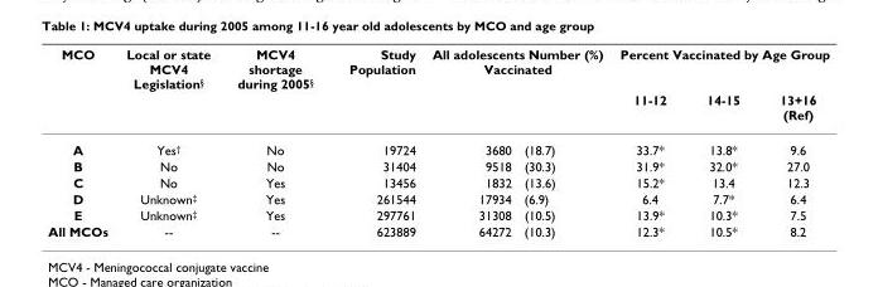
<table><thead><tr><td rowspan="2">MCO</td><td rowspan="2">Local or state MCV4 Legislation<sup>§</sup></td><td rowspan="2">MCV4 shortage during 2005<sup>§</sup></td><td rowspan="2">Study Population</td><td colspan="2">All adolescents Number (%) Vaccinated</td><td colspan="3">Percent Vaccinated by Age Group</td></tr><tr><td></td><td></td><td>11-12</td><td>14-15</td><td>13+16 (Ref)</td></tr></thead><tbody><tr><td>A</td><td>Yes<sup>†</sup></td><td>No</td><td>19724</td><td>3680</td><td>(18.7)</td><td>33.7*</td><td>13.8*</td><td>9.6</td></tr><tr><td>B</td><td>No</td><td>No</td><td>31404</td><td>9518</td><td>(30.3)</td><td>31.9*</td><td>32.0*</td><td>27.0</td></tr><tr><td>C</td><td>No</td><td>Yes</td><td>13456</td><td>1832</td><td>(13.6)</td><td>15.2*</td><td>13.4</td><td>12.3</td></tr><tr><td>D</td><td>Unknown<sup>‡</sup></td><td>Yes</td><td>261544</td><td>17934</td><td>(6.9)</td><td>6.4</td><td>7.7*</td><td>6.4</td></tr><tr><td>E</td><td>Unknown<sup>‡</sup></td><td>Yes</td><td>297761</td><td>31308</td><td>(10.5)</td><td>13.9*</td><td>10.3*</td><td>7.5</td></tr><tr><td>All MCOs</td><td>--</td><td>--</td><td>623889</td><td>64272</td><td>(10.3)</td><td>12.3*</td><td>10.5*</td><td>8.2</td></tr></tbody></table>